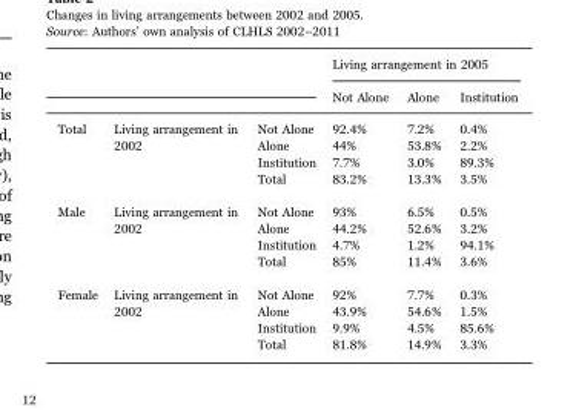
<table><thead><tr><td rowspan="2"></td><td rowspan="2"></td><td rowspan="2"></td><td colspan="3">Living arrangement in 2005</td></tr><tr><td>Not Alone</td><td>Alone</td><td>Institution</td></tr></thead><tbody><tr><td rowspan="4">Total</td><td rowspan="4">Living arrangement in 2002</td><td>Not Alone</td><td>92.4%</td><td>7.2%</td><td>0.4%</td></tr><tr><td>Alone</td><td>44%</td><td>53.8%</td><td>2.2%</td></tr><tr><td>Institution</td><td>7.7%</td><td>3.0%</td><td>89.3%</td></tr><tr><td>Total</td><td>83.2%</td><td>13.3%</td><td>3.5%</td></tr><tr><td rowspan="4">Male</td><td rowspan="4">Living arrangement in 2002</td><td>Not Alone</td><td>93%</td><td>6.5%</td><td>0.5%</td></tr><tr><td>Alone</td><td>44.2%</td><td>52.6%</td><td>3.2%</td></tr><tr><td>Institution</td><td>4.7%</td><td>1.2%</td><td>94.1%</td></tr><tr><td>Total</td><td>85%</td><td>11.4%</td><td>3.6%</td></tr><tr><td rowspan="4">Female</td><td rowspan="4">Living arrangement in 2002</td><td>Not Alone</td><td>92%</td><td>7.7%</td><td>0.3%</td></tr><tr><td>Alone</td><td>43.9%</td><td>54.6%</td><td>1.5%</td></tr><tr><td>Institution</td><td>9.9%</td><td>4.5%</td><td>85.6%</td></tr><tr><td>Total</td><td>81.8%</td><td>14.9%</td><td>3.3%</td></tr></tbody></table>